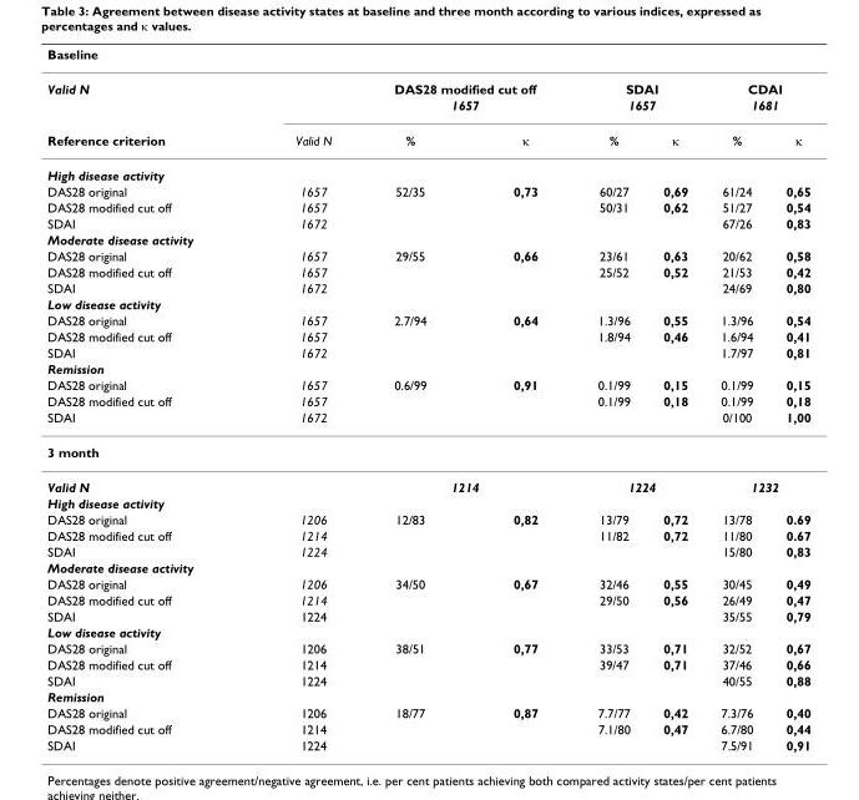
<table><thead><tr><td colspan="8">Baseline</td></tr><tr><td rowspan="3">Valid N Reference criterion</td><td rowspan="3">Valid N</td><td rowspan="2" colspan="2">DAS28 modified cut off 1657</td><td rowspan="2" colspan="2">SDAI 1657</td><td rowspan="2" colspan="2">CDAI 1681</td></tr><tr></tr><tr><td>%</td><td>κ</td><td>%</td><td>κ</td><td>%</td><td>κ</td></tr></thead><tbody><tr><td colspan="8">High disease activity</td></tr><tr><td>DAS28 original</td><td>1657</td><td>52/35</td><td>0,73</td><td>60/27</td><td>0,69</td><td>61/24</td><td>0,65</td></tr><tr><td>DAS28 modified cut off</td><td>1657</td><td></td><td></td><td>50/31</td><td>0,62</td><td>51/27</td><td>0,54</td></tr><tr><td>SDAI</td><td>1672</td><td></td><td></td><td></td><td></td><td>67/26</td><td>0,83</td></tr><tr><td colspan="8">Moderate disease activity</td></tr><tr><td>DAS28 original</td><td>1657</td><td>29/55</td><td>0,66</td><td>23/61</td><td>0,63</td><td>20/62</td><td>0,58</td></tr><tr><td>DAS28 modified cut off</td><td>1657</td><td></td><td></td><td>25/52</td><td>0,52</td><td>21/53</td><td>0,42</td></tr><tr><td>SDAI</td><td>1672</td><td></td><td></td><td></td><td></td><td>24/69</td><td>0,80</td></tr><tr><td colspan="8">Low disease activity</td></tr><tr><td>DAS28 original</td><td>1657</td><td>2.7/94</td><td>0,64</td><td>1.3/96</td><td>0,55</td><td>1.3/96</td><td>0,54</td></tr><tr><td>DAS28 modified cut off</td><td>1657</td><td></td><td></td><td>1.8/94</td><td>0,46</td><td>1.6/94</td><td>0,41</td></tr><tr><td>SDAI</td><td>1672</td><td></td><td></td><td></td><td></td><td>1.7/97</td><td>0,81</td></tr><tr><td colspan="8">Remission</td></tr><tr><td>DAS28 original</td><td>1657</td><td>0.6/99</td><td>0,91</td><td>0.1/99</td><td>0,15</td><td>0.1/99</td><td>0,15</td></tr><tr><td>DAS28 modified cut off</td><td>1657</td><td></td><td></td><td>0.1/99</td><td>0,18</td><td>0.1/99</td><td>0,18</td></tr><tr><td>SDAI</td><td>1672</td><td></td><td></td><td></td><td></td><td>0/100</td><td>1,00</td></tr><tr><td colspan="8">3 month</td></tr><tr><td>Valid N</td><td></td><td colspan="2">1214</td><td colspan="2">1224</td><td colspan="2">1232</td></tr><tr><td colspan="8">High disease activity</td></tr><tr><td>DAS28 original</td><td>1206</td><td>12/83</td><td>0,82</td><td>13/79</td><td>0,72</td><td>13/78</td><td>0.69</td></tr><tr><td>DAS28 modified cut off</td><td>1214</td><td></td><td></td><td>11/82</td><td>0,72</td><td>11/80</td><td>0.67</td></tr><tr><td>SDAI</td><td>1224</td><td></td><td></td><td></td><td></td><td>15/80</td><td>0,83</td></tr><tr><td colspan="8">Moderate disease activity</td></tr><tr><td>DAS28 original</td><td>1206</td><td>34/50</td><td>0,67</td><td>32/46</td><td>0,55</td><td>30/45</td><td>0,49</td></tr><tr><td>DAS28 modified cut off</td><td>1214</td><td></td><td></td><td>29/50</td><td>0,56</td><td>26/49</td><td>0,47</td></tr><tr><td>SDAI</td><td>1224</td><td></td><td></td><td></td><td></td><td>35/55</td><td>0,79</td></tr><tr><td colspan="8">Low disease activity</td></tr><tr><td>DAS28 original</td><td>1206</td><td>38/51</td><td>0,77</td><td>33/53</td><td>0,71</td><td>32/52</td><td>0,67</td></tr><tr><td>DAS28 modified cut off</td><td>1214</td><td></td><td></td><td>39/47</td><td>0,71</td><td>37/46</td><td>0,66</td></tr><tr><td>SDAI</td><td>1224</td><td></td><td></td><td></td><td></td><td>40/55</td><td>0,88</td></tr><tr><td colspan="8">Remission</td></tr><tr><td>DAS28 original</td><td>1206</td><td>18/77</td><td>0,87</td><td>7.7/77</td><td>0,42</td><td>7.3/76</td><td>0,40</td></tr><tr><td>DAS28 modified cut off</td><td>1214</td><td></td><td></td><td>7.1/80</td><td>0,47</td><td>6.7/80</td><td>0,44</td></tr><tr><td>SDAI</td><td>1224</td><td></td><td></td><td></td><td></td><td>7.5/91</td><td>0,91</td></tr></tbody></table>